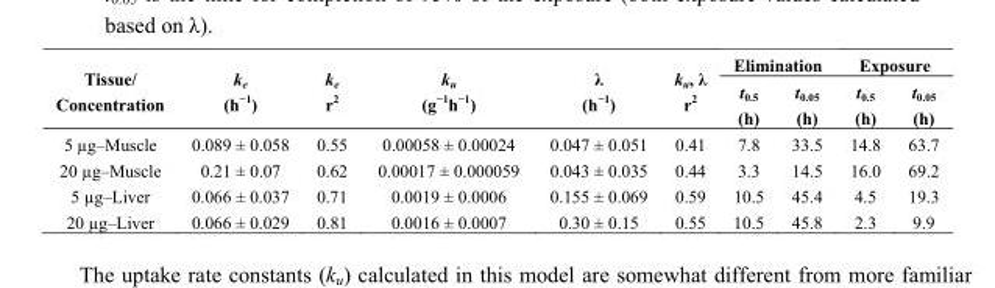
<table><thead><tr><td rowspan="2">Tissue/ Concentration</td><td rowspan="2">k<sub>e</sub> (h<sup>−1</sup>)</td><td rowspan="2">k<sub>e</sub> r<sup>2</sup></td><td rowspan="2">k<sub>u</sub> (g<sup>−1</sup>h<sup>−1</sup>)</td><td rowspan="2">λ (h<sup>−1</sup>)</td><td rowspan="2">k<sub>u</sub>, λ r<sup>2</sup></td><td colspan="2">Elimination</td><td colspan="2">Exposure</td></tr><tr><td>t<sub>0.5</sub> (h)</td><td>t<sub>0.05</sub> (h)</td><td>t<sub>0.5</sub> (h)</td><td>t<sub>0.05</sub> (h)</td></tr></thead><tbody><tr><td>5 µg–Muscle</td><td>0.089 ± 0.058</td><td>0.55</td><td>0.00058 ± 0.00024</td><td>0.047 ± 0.051</td><td>0.41</td><td>7.8</td><td>33.5</td><td>14.8</td><td>63.7</td></tr><tr><td>20 µg–Muscle</td><td>0.21 ± 0.07</td><td>0.62</td><td>0.00017 ± 0.000059</td><td>0.043 ± 0.035</td><td>0.44</td><td>3.3</td><td>14.5</td><td>16.0</td><td>69.2</td></tr><tr><td>5 µg–Liver</td><td>0.066 ± 0.037</td><td>0.71</td><td>0.0019 ± 0.0006</td><td>0.155 ± 0.069</td><td>0.59</td><td>10.5</td><td>45.4</td><td>4.5</td><td>19.3</td></tr><tr><td>20 µg–Liver</td><td>0.066 ± 0.029</td><td>0.81</td><td>0.0016 ± 0.0007</td><td>0.30 ± 0.15</td><td>0.55</td><td>10.5</td><td>45.8</td><td>2.3</td><td>9.9</td></tr></tbody></table>